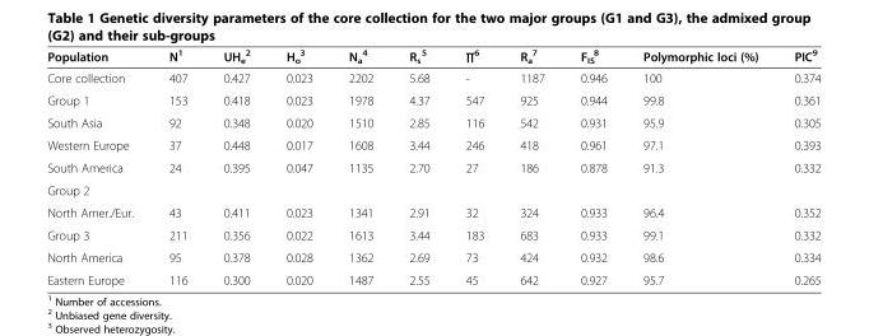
<table><thead><tr><td>Population</td><td>N<sup>1</sup></td><td>UH<sub>e</sub> <sup>2</sup></td><td>H<sub>o</sub> <sup>3</sup></td><td>N<sub>a</sub> <sup>4</sup></td><td>R<sub>s</sub> <sup>5</sup></td><td>∏<sup>6</sup></td><td>R<sub>a</sub> <sup>7</sup></td><td>F<sub>IS</sub> <sup>8</sup></td><td>Polymorphic loci (%)</td><td>PIC<sup>9</sup></td></tr></thead><tbody><tr><td>Core collection</td><td>407</td><td>0.427</td><td>0.023</td><td>2202</td><td>5.68</td><td>-</td><td>1187</td><td>0.946</td><td>100</td><td>0.374</td></tr><tr><td>Group 1</td><td>153</td><td>0.418</td><td>0.023</td><td>1978</td><td>4.37</td><td>547</td><td>925</td><td>0.944</td><td>99.8</td><td>0.361</td></tr><tr><td>South Asia</td><td>92</td><td>0.348</td><td>0.020</td><td>1510</td><td>2.85</td><td>116</td><td>542</td><td>0.931</td><td>95.9</td><td>0.305</td></tr><tr><td>Western Europe</td><td>37</td><td>0.448</td><td>0.017</td><td>1608</td><td>3.44</td><td>246</td><td>418</td><td>0.961</td><td>97.1</td><td>0.393</td></tr><tr><td>South America</td><td>24</td><td>0.395</td><td>0.047</td><td>1135</td><td>2.70</td><td>27</td><td>186</td><td>0.878</td><td>91.3</td><td>0.332</td></tr><tr><td colspan="11">Group 2</td></tr><tr><td>North Amer./Eur.</td><td>43</td><td>0.411</td><td>0.023</td><td>1341</td><td>2.91</td><td>32</td><td>324</td><td>0.933</td><td>96.4</td><td>0.352</td></tr><tr><td>Group 3</td><td>211</td><td>0.356</td><td>0.022</td><td>1613</td><td>3.44</td><td>183</td><td>683</td><td>0.933</td><td>99.1</td><td>0.332</td></tr><tr><td>North America</td><td>95</td><td>0.378</td><td>0.028</td><td>1362</td><td>2.69</td><td>73</td><td>424</td><td>0.932</td><td>98.6</td><td>0.334</td></tr><tr><td>Eastern Europe</td><td>116</td><td>0.300</td><td>0.020</td><td>1487</td><td>2.55</td><td>45</td><td>642</td><td>0.927</td><td>95.7</td><td>0.265</td></tr></tbody></table>